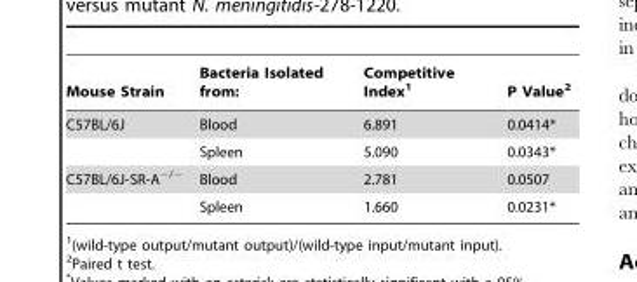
<table><thead><tr><td>Mouse Strain</td><td>Bacteria Isolated from:</td><td>Competitive Index<sup>1</sup></td><td>P Value<sup>2</sup></td></tr></thead><tbody><tr><td rowspan="2">C57BL/6J</td><td>Blood</td><td>6.891</td><td>0.0414*</td></tr><tr><td>Spleen</td><td>5.090</td><td>0.0343*</td></tr><tr><td rowspan="2">C57BL/6J-SR-A<sup>−/−</sup></td><td>Blood</td><td>2.781</td><td>0.0507</td></tr><tr><td>Spleen</td><td>1.660</td><td>0.0231*</td></tr></tbody></table>